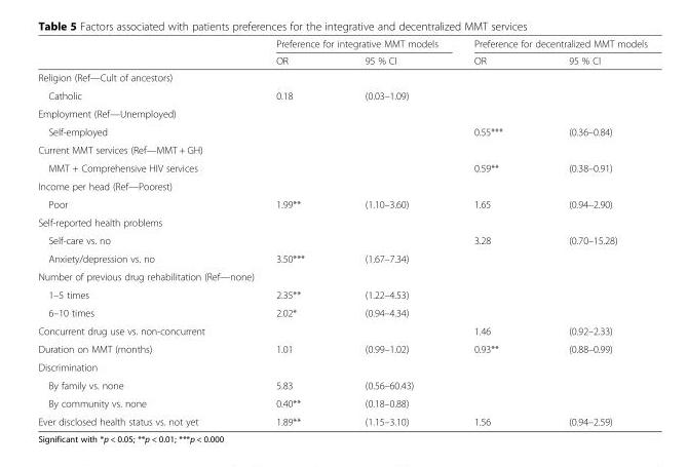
<table><thead><tr><td rowspan="2"></td><td colspan="2">Preference for integrative MMT models</td><td colspan="2">Preference for decentralized MMT models</td></tr><tr><td>OR</td><td>95 % CI</td><td>OR</td><td>95 % CI</td></tr></thead><tbody><tr><td colspan="5">Religion (Ref—Cult of ancestors)</td></tr><tr><td>Catholic</td><td>0.18</td><td>(0.03–1.09)</td><td></td><td></td></tr><tr><td colspan="5">Employment (Ref—Unemployed)</td></tr><tr><td>Self-employed</td><td></td><td></td><td>0.55***</td><td>(0.36–0.84)</td></tr><tr><td colspan="5">Current MMT services (Ref—MMT + GH)</td></tr><tr><td>MMT + Comprehensive HIV services</td><td></td><td></td><td>0.59**</td><td>(0.38–0.91)</td></tr><tr><td colspan="5">Income per head (Ref—Poorest)</td></tr><tr><td>Poor</td><td>1.99**</td><td>(1.10–3.60)</td><td>1.65</td><td>(0.94–2.90)</td></tr><tr><td colspan="5">Self-reported health problems</td></tr><tr><td>Self-care vs. no</td><td></td><td></td><td>3.28</td><td>(0.70–15.28)</td></tr><tr><td>Anxiety/depression vs. no</td><td>3.50***</td><td>(1.67–7.34)</td><td></td><td></td></tr><tr><td colspan="5">Number of previous drug rehabilitation (Ref—none)</td></tr><tr><td>1–5 times</td><td>2.35**</td><td>(1.22–4.53)</td><td></td><td></td></tr><tr><td>6–10 times</td><td>2.02*</td><td>(0.94–4.34)</td><td></td><td></td></tr><tr><td>Concurrent drug use vs. non-concurrent</td><td></td><td></td><td>1.46</td><td>(0.92–2.33)</td></tr><tr><td>Duration on MMT (months)</td><td>1.01</td><td>(0.99–1.02)</td><td>0.93**</td><td>(0.88–0.99)</td></tr><tr><td colspan="5">Discrimination</td></tr><tr><td>By family vs. none</td><td>5.83</td><td>(0.56–60.43)</td><td></td><td></td></tr><tr><td>By community vs. none</td><td>0.40**</td><td>(0.18–0.88)</td><td></td><td></td></tr><tr><td>Ever disclosed health status vs. not yet</td><td>1.89**</td><td>(1.15–3.10)</td><td>1.56</td><td>(0.94–2.59)</td></tr></tbody></table>